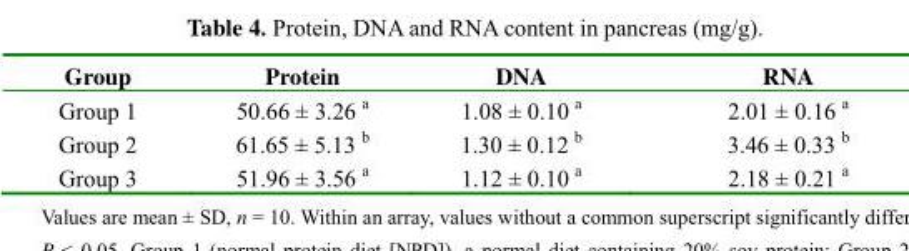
<table><thead><tr><td>Group</td><td>Protein</td><td>DNA</td><td>RNA</td></tr></thead><tbody><tr><td>Group 1</td><td>50.66 ± 3.26 <sup>a</sup></td><td>1.08 ± 0.10 <sup>a</sup></td><td>2.01 ± 0.16 <sup>a</sup></td></tr><tr><td>Group 2</td><td>61.65 ± 5.13 <sup>b</sup></td><td>1.30 ± 0.12 <sup>b</sup></td><td>3.46 ± 0.33 <sup>b</sup></td></tr><tr><td>Group 3</td><td>51.96 ± 3.56 <sup>a</sup></td><td>1.12 ± 0.10 <sup>a</sup></td><td>2.18 ± 0.21 <sup>a</sup></td></tr></tbody></table>